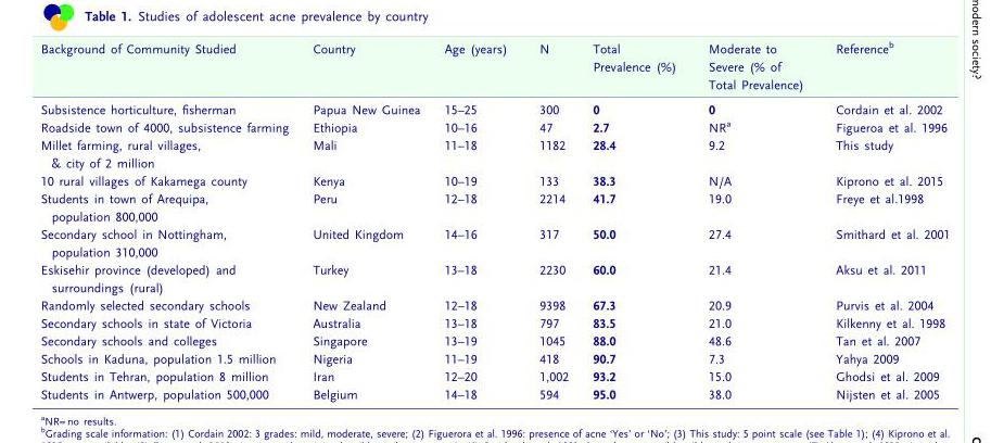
<table><thead><tr><td>Background of Community Studied</td><td>Country</td><td>Age (years)</td><td>N</td><td>Total Prevalence (%)</td><td>Moderate to Severe (% of Total Prevalence)</td><td>Reference<sup>b</sup></td></tr></thead><tbody><tr><td>Subsistence horticulture, fisherman</td><td>Papua New Guinea</td><td>15–25</td><td>300</td><td>0</td><td>0</td><td>Cordain et al. 2002</td></tr><tr><td>Roadside town of 4000, subsistence farming</td><td>Ethiopia</td><td>10–16</td><td>47</td><td>2.7</td><td>NR<sup>a</sup></td><td>Figueroa et al. 1996</td></tr><tr><td>Millet farming, rural villages, &amp; city of 2 million</td><td>Mali</td><td>11–18</td><td>1182</td><td>28.4</td><td>9.2</td><td>This study</td></tr><tr><td>10 rural villages of Kakamega county</td><td>Kenya</td><td>10–19</td><td>133</td><td>38.3</td><td>N/A</td><td>Kiprono et al. 2015</td></tr><tr><td>Students in town of Arequipa, population 800,000</td><td>Peru</td><td>12–18</td><td>2214</td><td>41.7</td><td>19.0</td><td>Freye et al.1998</td></tr><tr><td>Secondary school in Nottingham, population 310,000</td><td>United Kingdom</td><td>14–16</td><td>317</td><td>50.0</td><td>27.4</td><td>Smithard et al. 2001</td></tr><tr><td>Eskisehir province (developed) and surroundings (rural)</td><td>Turkey</td><td>13–18</td><td>2230</td><td>60.0</td><td>21.4</td><td>Aksu et al. 2011</td></tr><tr><td>Randomly selected secondary schools</td><td>New Zealand</td><td>12–18</td><td>9398</td><td>67.3</td><td>20.9</td><td>Purvis et al. 2004</td></tr><tr><td>Secondary schools in state of Victoria</td><td>Australia</td><td>13–18</td><td>797</td><td>83.5</td><td>21.0</td><td>Kilkenny et al. 1998</td></tr><tr><td>Secondary schools and colleges</td><td>Singapore</td><td>13–19</td><td>1045</td><td>88.0</td><td>48.6</td><td>Tan et al. 2007</td></tr><tr><td>Schools in Kaduna, population 1.5 million</td><td>Nigeria</td><td>11–19</td><td>418</td><td>90.7</td><td>7.3</td><td>Yahya 2009</td></tr><tr><td>Students in Tehran, population 8 million</td><td>Iran</td><td>12–20</td><td>1,002</td><td>93.2</td><td>15.0</td><td>Ghodsi et al. 2009</td></tr><tr><td>Students in Antwerp, population 500,000</td><td>Belgium</td><td>14–18</td><td>594</td><td>95.0</td><td>38.0</td><td>Nijsten et al. 2005</td></tr></tbody></table>